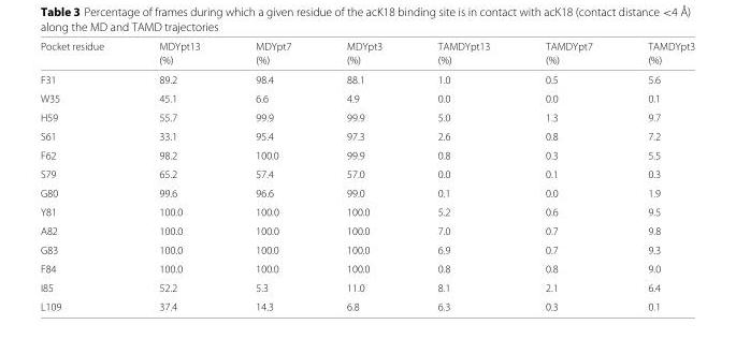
<table><thead><tr><td rowspan="2">Pocket residue</td><td rowspan="2">MDYpt13 (%)</td><td rowspan="2">MDYpt7 (%)</td><td rowspan="2">MDYpt3 (%)</td><td rowspan="2">TAMDYpt13 (%)</td><td rowspan="2">TAMDYpt7 (%)</td><td rowspan="2">TAMDYpt3 (%)</td></tr><tr></tr></thead><tbody><tr><td>F31</td><td>89.2</td><td>98.4</td><td>88.1</td><td>1.0</td><td>0.5</td><td>5.6</td></tr><tr><td>W35</td><td>45.1</td><td>6.6</td><td>4.9</td><td>0.0</td><td>0.0</td><td>0.1</td></tr><tr><td>H59</td><td>55.7</td><td>99.9</td><td>99.9</td><td>5.0</td><td>1.3</td><td>9.7</td></tr><tr><td>S61</td><td>33.1</td><td>95.4</td><td>97.3</td><td>2.6</td><td>0.8</td><td>7.2</td></tr><tr><td>F62</td><td>98.2</td><td>100.0</td><td>99.9</td><td>0.8</td><td>0.3</td><td>5.5</td></tr><tr><td>S79</td><td>65.2</td><td>57.4</td><td>57.0</td><td>0.0</td><td>0.1</td><td>0.3</td></tr><tr><td>G80</td><td>99.6</td><td>96.6</td><td>99.0</td><td>0.1</td><td>0.0</td><td>1.9</td></tr><tr><td>Y81</td><td>100.0</td><td>100.0</td><td>100.0</td><td>5.2</td><td>0.6</td><td>9.5</td></tr><tr><td>A82</td><td>100.0</td><td>100.0</td><td>100.0</td><td>7.0</td><td>0.7</td><td>9.8</td></tr><tr><td>G83</td><td>100.0</td><td>100.0</td><td>100.0</td><td>6.9</td><td>0.7</td><td>9.3</td></tr><tr><td>F84</td><td>100.0</td><td>100.0</td><td>100.0</td><td>0.8</td><td>0.8</td><td>9.0</td></tr><tr><td>I85</td><td>52.2</td><td>5.3</td><td>11.0</td><td>8.1</td><td>2.1</td><td>6.4</td></tr><tr><td>L109</td><td>37.4</td><td>14.3</td><td>6.8</td><td>6.3</td><td>0.3</td><td>0.1</td></tr></tbody></table>